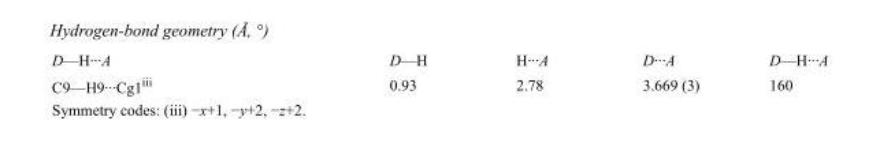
<table><tbody><tr><td>D—H···A</td><td>D—H</td><td>H···A</td><td>D···A</td><td>D—H···A</td></tr><tr><td>C9—H9···Cg1<sup>iii</sup></td><td>0.93</td><td>2.78</td><td>3.669 (3)</td><td>160</td></tr></tbody></table>